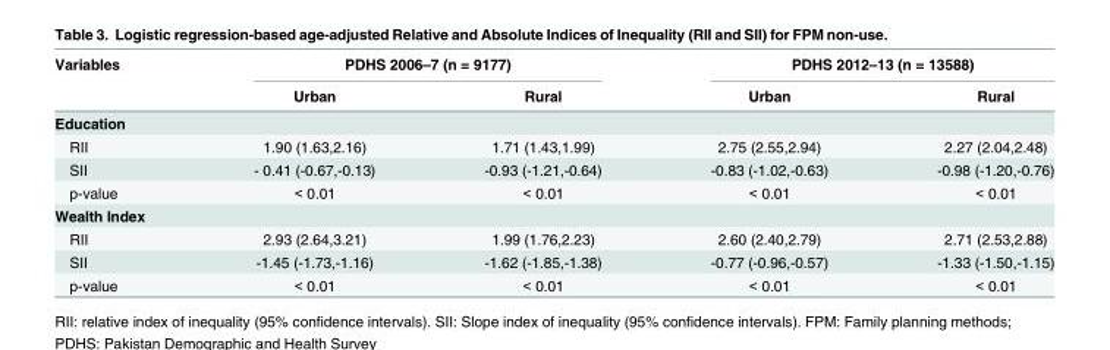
<table><thead><tr><td rowspan="2">Variables</td><td colspan="2">PDHS 2006–7 (n = 9177)</td><td colspan="2">PDHS 2012–13 (n = 13588)</td></tr><tr><td>Urban</td><td>Rural</td><td>Urban</td><td>Rural</td></tr></thead><tbody><tr><td colspan="5">Education</td></tr><tr><td>RII</td><td>1.90 (1.63,2.16)</td><td>1.71 (1.43,1.99)</td><td>2.75 (2.55,2.94)</td><td>2.27 (2.04,2.48)</td></tr><tr><td>SII</td><td>- 0.41 (-0.67,-0.13)</td><td>-0.93 (-1.21,-0.64)</td><td>-0.83 (-1.02,-0.63)</td><td>-0.98 (-1.20,-0.76)</td></tr><tr><td>p-value</td><td>&lt; 0.01</td><td>&lt; 0.01</td><td>&lt; 0.01</td><td>&lt; 0.01</td></tr><tr><td colspan="5">Wealth Index</td></tr><tr><td>RII</td><td>2.93 (2.64,3.21)</td><td>1.99 (1.76,2.23)</td><td>2.60 (2.40,2.79)</td><td>2.71 (2.53,2.88)</td></tr><tr><td>SII</td><td>-1.45 (-1.73,-1.16)</td><td>-1.62 (-1.85,-1.38)</td><td>-0.77 (-0.96,-0.57)</td><td>-1.33 (-1.50,-1.15)</td></tr><tr><td>p-value</td><td>&lt; 0.01</td><td>&lt; 0.01</td><td>&lt; 0.01</td><td>&lt; 0.01</td></tr></tbody></table>